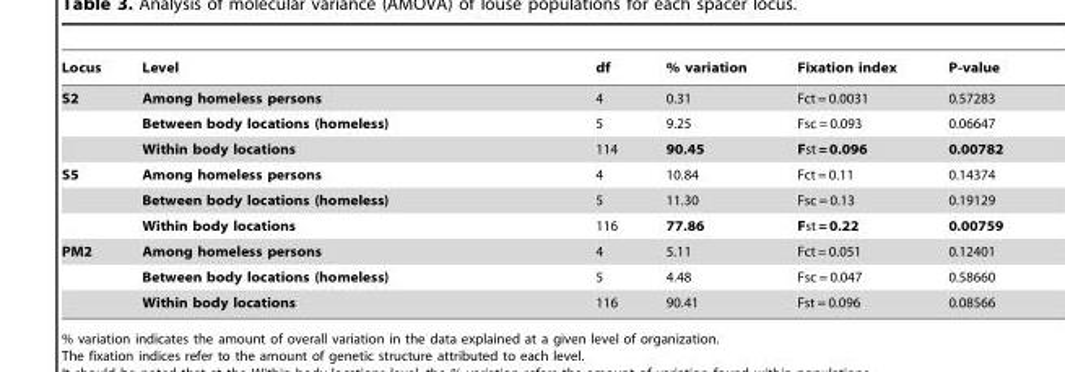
<table><thead><tr><td>Locus</td><td>Level</td><td>df</td><td>% variation</td><td>Fixation index</td><td>P-value</td></tr></thead><tbody><tr><td rowspan="3">S2</td><td>Among homeless persons</td><td>4</td><td>0.31</td><td>Fct = 0.0031</td><td>0.57283</td></tr><tr><td>Between body locations (homeless)</td><td>5</td><td>9.25</td><td>Fsc = 0.093</td><td>0.06647</td></tr><tr><td>Within body locations</td><td>114</td><td>90.45</td><td>Fst = 0.096</td><td>0.00782</td></tr><tr><td rowspan="3">S5</td><td>Among homeless persons</td><td>4</td><td>10.84</td><td>Fct = 0.11</td><td>0.14374</td></tr><tr><td>Between body locations (homeless)</td><td>5</td><td>11.30</td><td>Fsc = 0.13</td><td>0.19129</td></tr><tr><td>Within body locations</td><td>116</td><td>77.86</td><td>Fst = 0.22</td><td>0.00759</td></tr><tr><td rowspan="3">PM2</td><td>Among homeless persons</td><td>4</td><td>5.11</td><td>Fct = 0.051</td><td>0.12401</td></tr><tr><td>Between body locations (homeless)</td><td>5</td><td>4.48</td><td>Fsc = 0.047</td><td>0.58660</td></tr><tr><td>Within body locations</td><td>116</td><td>90.41</td><td>Fst = 0.096</td><td>0.08566</td></tr></tbody></table>